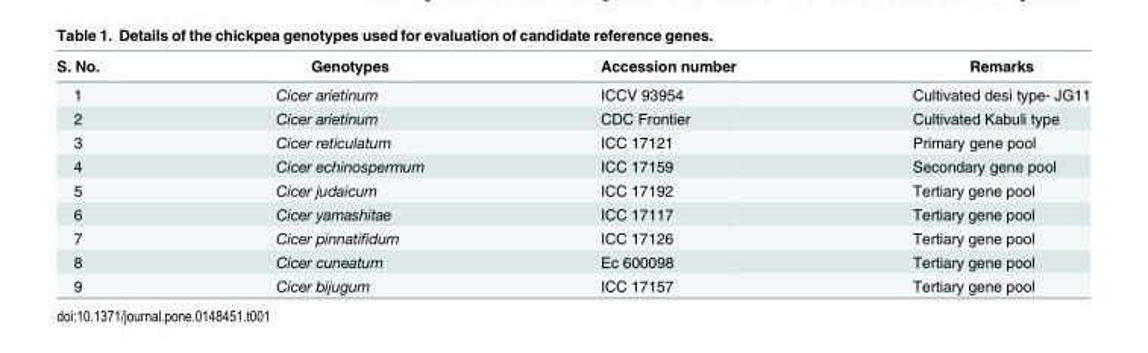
<table><thead><tr><td>S. No.</td><td>Genotypes</td><td>Accession number</td><td>Remarks</td></tr></thead><tbody><tr><td>1</td><td>Cicer arietinum</td><td>ICCV 93954</td><td>Cultivated desi type- JG11</td></tr><tr><td>2</td><td>Cicer arietinum</td><td>CDC Frontier</td><td>Cultivated Kabuli type</td></tr><tr><td>3</td><td>Cicer reticulatum</td><td>ICC 17121</td><td>Primary gene pool</td></tr><tr><td>4</td><td>Cicer echinospermum</td><td>ICC 17159</td><td>Secondary gene pool</td></tr><tr><td>5</td><td>Cicer judaicum</td><td>ICC 17192</td><td>Tertiary gene pool</td></tr><tr><td>6</td><td>Cicer yamashitae</td><td>ICC 17117</td><td>Tertiary gene pool</td></tr><tr><td>7</td><td>Cicer pinnatifidum</td><td>ICC 17126</td><td>Tertiary gene pool</td></tr><tr><td>8</td><td>Cicer cuneatum</td><td>Ec 600098</td><td>Tertiary gene pool</td></tr><tr><td>9</td><td>Cicer bijugum</td><td>ICC 17157</td><td>Tertiary gene pool</td></tr></tbody></table>